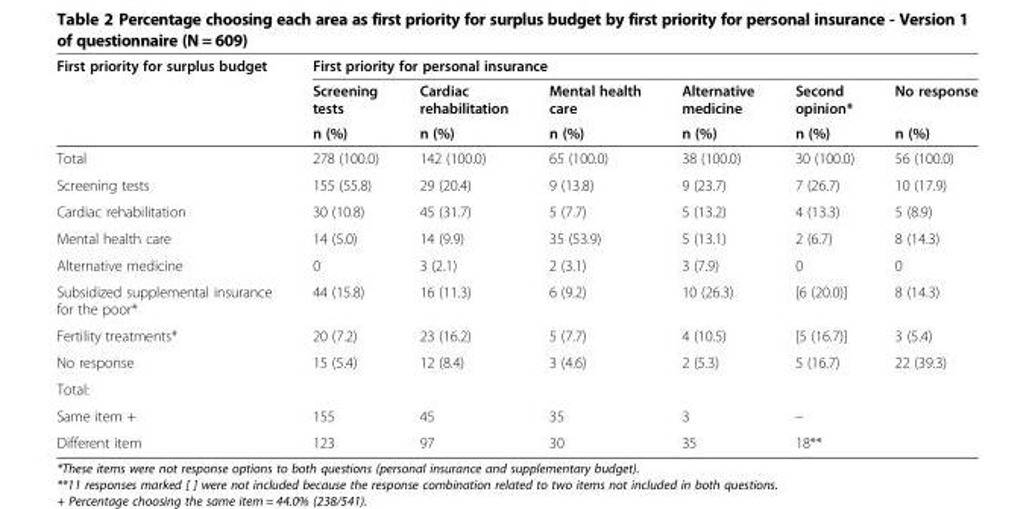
<table><thead><tr><td rowspan="3">First priority for surplus budget</td><td colspan="6">First priority for personal insurance</td></tr><tr><td rowspan="2">Screening tests n (%)</td><td rowspan="2">Cardiac rehabilitation n (%)</td><td rowspan="2">Mental health care n (%)</td><td rowspan="2">Alternative medicine n (%)</td><td rowspan="2">Second opinion* n (%)</td><td rowspan="2">No response n (%)</td></tr><tr></tr></thead><tbody><tr><td>Total</td><td>278 (100.0)</td><td>142 (100.0)</td><td>65 (100.0)</td><td>38 (100.0)</td><td>30 (100.0)</td><td>56 (100.0)</td></tr><tr><td>Screening tests</td><td>155 (55.8)</td><td>29 (20.4)</td><td>9 (13.8)</td><td>9 (23.7)</td><td>7 (26.7)</td><td>10 (17.9)</td></tr><tr><td>Cardiac rehabilitation</td><td>30 (10.8)</td><td>45 (31.7)</td><td>5 (7.7)</td><td>5 (13.2)</td><td>4 (13.3)</td><td>5 (8.9)</td></tr><tr><td>Mental health care</td><td>14 (5.0)</td><td>14 (9.9)</td><td>35 (53.9)</td><td>5 (13.1)</td><td>2 (6.7)</td><td>8 (14.3)</td></tr><tr><td>Alternative medicine</td><td>0</td><td>3 (2.1)</td><td>2 (3.1)</td><td>3 (7.9)</td><td>0</td><td>0</td></tr><tr><td>Subsidized supplemental insurance for the poor*</td><td>44 (15.8)</td><td>16 (11.3)</td><td>6 (9.2)</td><td>10 (26.3)</td><td>[6 (20.0)]</td><td>8 (14.3)</td></tr><tr><td>Fertility treatments*</td><td>20 (7.2)</td><td>23 (16.2)</td><td>5 (7.7)</td><td>4 (10.5)</td><td>[5 (16.7)]</td><td>3 (5.4)</td></tr><tr><td>No response</td><td>15 (5.4)</td><td>12 (8.4)</td><td>3 (4.6)</td><td>2 (5.3)</td><td>5 (16.7)</td><td>22 (39.3)</td></tr><tr><td colspan="7">Total:</td></tr><tr><td>Same item +</td><td>155</td><td>45</td><td>35</td><td>3</td><td>–</td><td></td></tr><tr><td>Different item</td><td>123</td><td>97</td><td>30</td><td>35</td><td>18**</td><td></td></tr></tbody></table>